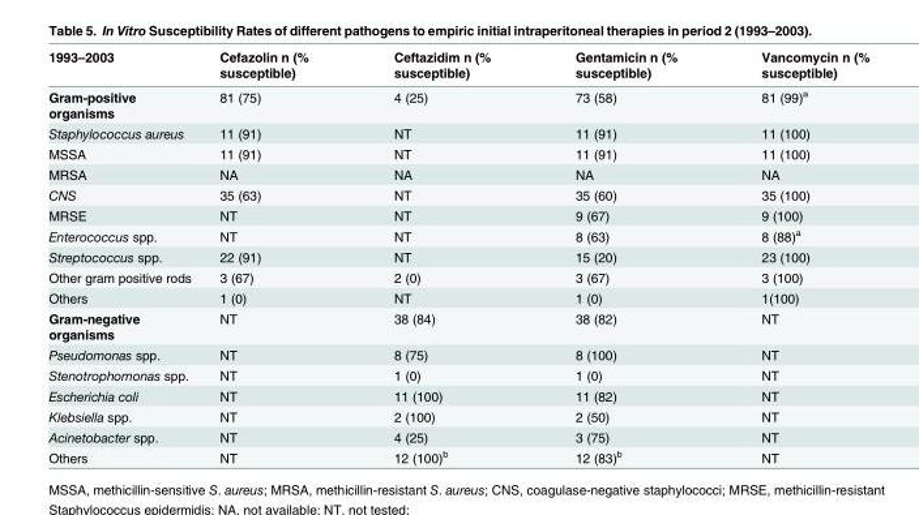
<table><thead><tr><td>1993–2003</td><td>Cefazolin n (% susceptible)</td><td>Ceftazidim n (% susceptible)</td><td>Gentamicin n (% susceptible)</td><td>Vancomycin n (% susceptible)</td></tr></thead><tbody><tr><td>Gram-positive organisms</td><td>81 (75)</td><td>4 (25)</td><td>73 (58)</td><td>81 (99)<sup>a</sup></td></tr><tr><td>Staphylococcus aureus</td><td>11 (91)</td><td>NT</td><td>11 (91)</td><td>11 (100)</td></tr><tr><td>MSSA</td><td>11 (91)</td><td>NT</td><td>11 (91)</td><td>11 (100)</td></tr><tr><td>MRSA</td><td>NA</td><td>NA</td><td>NA</td><td>NA</td></tr><tr><td>CNS</td><td>35 (63)</td><td>NT</td><td>35 (60)</td><td>35 (100)</td></tr><tr><td>MRSE</td><td>NT</td><td>NT</td><td>9 (67)</td><td>9 (100)</td></tr><tr><td>Enterococcus spp.</td><td>NT</td><td>NT</td><td>8 (63)</td><td>8 (88)<sup>a</sup></td></tr><tr><td>Streptococcus spp.</td><td>22 (91)</td><td>NT</td><td>15 (20)</td><td>23 (100)</td></tr><tr><td>Other gram positive rods</td><td>3 (67)</td><td>2 (0)</td><td>3 (67)</td><td>3 (100)</td></tr><tr><td>Others</td><td>1 (0)</td><td>NT</td><td>1 (0)</td><td>1(100)</td></tr><tr><td>Gram-negative organisms</td><td>NT</td><td>38 (84)</td><td>38 (82)</td><td>NT</td></tr><tr><td>Pseudomonas spp.</td><td>NT</td><td>8 (75)</td><td>8 (100)</td><td>NT</td></tr><tr><td>Stenotrophomonas spp.</td><td>NT</td><td>1 (0)</td><td>1 (0)</td><td>NT</td></tr><tr><td>Escherichia coli</td><td>NT</td><td>11 (100)</td><td>11 (82)</td><td>NT</td></tr><tr><td>Klebsiella spp.</td><td>NT</td><td>2 (100)</td><td>2 (50)</td><td>NT</td></tr><tr><td>Acinetobacter spp.</td><td>NT</td><td>4 (25)</td><td>3 (75)</td><td>NT</td></tr><tr><td>Others</td><td>NT</td><td>12 (100)<sup>b</sup></td><td>12 (83)<sup>b</sup></td><td>NT</td></tr></tbody></table>